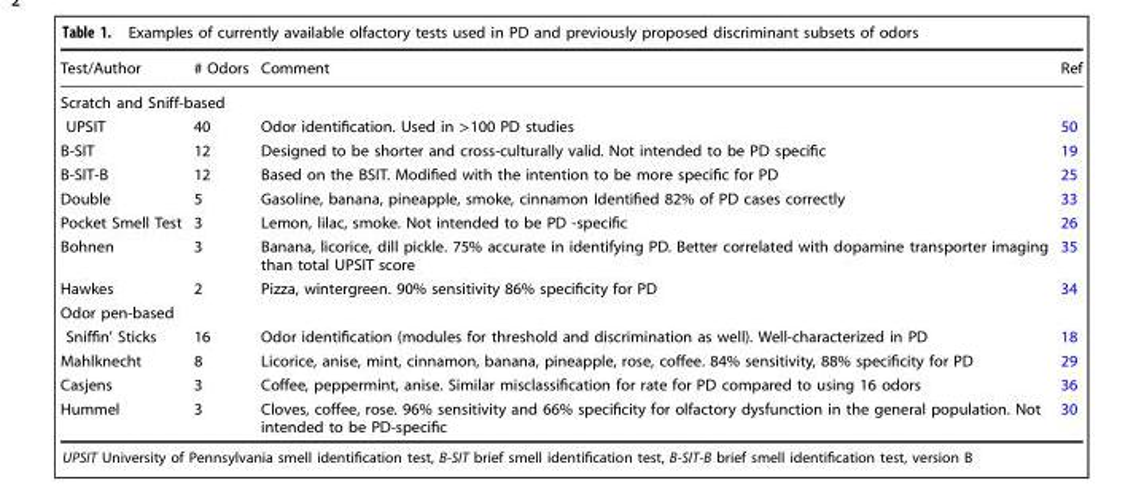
<table><thead><tr><td>Test/Author</td><td># Odors</td><td>Comment</td><td>Ref</td></tr></thead><tbody><tr><td colspan="4">Scratch and Sniff-based</td></tr><tr><td>UPSIT</td><td>40</td><td>Odor identification. Used in &gt;100 PD studies</td><td>50</td></tr><tr><td>B-SIT</td><td>12</td><td>Designed to be shorter and cross-culturally valid. Not intended to be PD specific</td><td>19</td></tr><tr><td>B-SIT-B</td><td>12</td><td>Based on the BSIT. Modified with the intention to be more specific for PD</td><td>25</td></tr><tr><td>Double</td><td>5</td><td>Gasoline, banana, pineapple, smoke, cinnamon Identified 82% of PD cases correctly</td><td>33</td></tr><tr><td>Pocket Smell Test</td><td>3</td><td>Lemon, lilac, smoke. Not intended to be PD -specific</td><td>26</td></tr><tr><td>Bohnen</td><td>3</td><td>Banana, licorice, dill pickle. 75% accurate in identifying PD. Better correlated with dopamine transporter imaging than total UPSIT score</td><td>35</td></tr><tr><td>Hawkes</td><td>2</td><td>Pizza, wintergreen. 90% sensitivity 86% specificity for PD</td><td>34</td></tr><tr><td colspan="4">Odor pen-based</td></tr><tr><td>Sniffin’ Sticks</td><td>16</td><td>Odor identification (modules for threshold and discrimination as well). Well-characterized in PD</td><td>18</td></tr><tr><td>Mahlknecht</td><td>8</td><td>Licorice, anise, mint, cinnamon, banana, pineapple, rose, coffee. 84% sensitivity, 88% specificity for PD</td><td>29</td></tr><tr><td>Casjens</td><td>3</td><td>Coffee, peppermint, anise. Similar misclassification for rate for PD compared to using 16 odors</td><td>36</td></tr><tr><td>Hummel</td><td>3</td><td>Cloves, coffee, rose. 96% sensitivity and 66% specificity for olfactory dysfunction in the general population. Not intended to be PD-specific</td><td>30</td></tr></tbody></table>